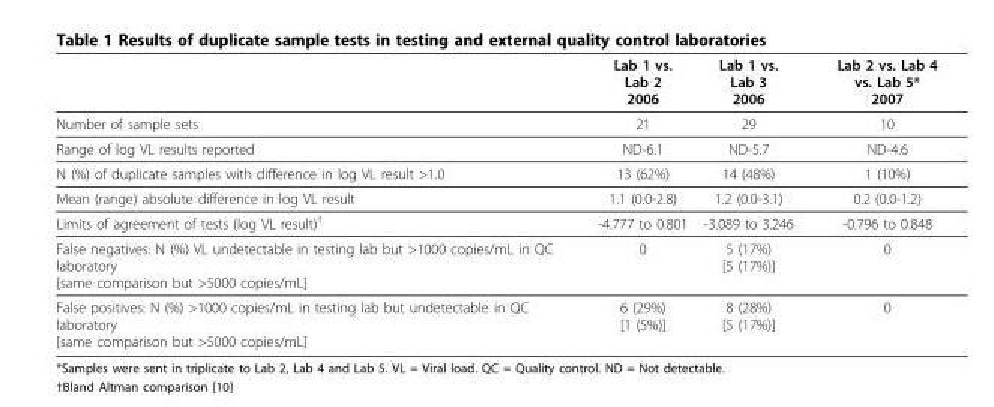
<table><thead><tr><td></td><td>Lab 1 vs. Lab 2 2006</td><td>Lab 1 vs. Lab 3 2006</td><td>Lab 2 vs. Lab 4 vs. Lab 5* 2007</td></tr></thead><tbody><tr><td>Number of sample sets</td><td>21</td><td>29</td><td>10</td></tr><tr><td>Range of log VL results reported</td><td>ND-6.1</td><td>ND-5.7</td><td>ND-4.6</td></tr><tr><td>N (%) of duplicate samples with difference in log VL result &gt;1.0</td><td>13 (62%)</td><td>14 (48%)</td><td>1 (10%)</td></tr><tr><td>Mean (range) absolute difference in log VL result</td><td>1.1 (0.0-2.8)</td><td>1.2 (0.0-3.1)</td><td>0.2 (0.0-1.2)</td></tr><tr><td>Limits of agreement of tests (log VL result)<sup>†</sup></td><td>-4.777 to 0.801</td><td>-3.089 to 3.246</td><td>-0.796 to 0.848</td></tr><tr><td>False negatives: N (%) VL undetectable in testing lab but &gt;1000 copies/mL in QC laboratory [same comparison but &gt;5000 copies/mL]</td><td>0</td><td>5 (17%) [5 (17%)]</td><td>0</td></tr><tr><td>False positives: N (%) &gt;1000 copies/mL in testing lab but undetectable in QC laboratory [same comparison but &gt;5000 copies/mL]</td><td>6 (29%) [1 (5%)]</td><td>8 (28%) [5 (17%)]</td><td>0</td></tr></tbody></table>